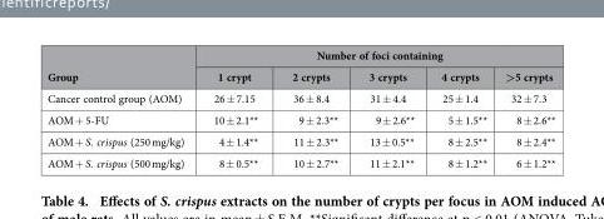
<table><thead><tr><td rowspan="2">Group</td><td colspan="5">Number of foci containing</td></tr><tr><td>1 crypt</td><td>2 crypts</td><td>3 crypts</td><td>4 crypts</td><td>&gt;5 crypts</td></tr></thead><tbody><tr><td>Cancer control group (AOM)</td><td>26 ± 7.15</td><td>36 ± 8.4</td><td>31 ± 4.4</td><td>25 ± 1.4</td><td>32 ± 7.3</td></tr><tr><td>AOM + 5-FU</td><td>10 ± 2.1**</td><td>9 ± 2.3**</td><td>9 ± 2.6**</td><td>5 ± 1.5**</td><td>8 ± 2.6**</td></tr><tr><td>AOM + S. crispus (250 mg/kg)</td><td>4 ± 1.4**</td><td>11 ± 2.3**</td><td>13 ± 0.5**</td><td>8 ± 2.5**</td><td>8 ± 2.4**</td></tr><tr><td>AOM + S. crispus (500 mg/kg)</td><td>8 ± 0.5**</td><td>10 ± 2.7**</td><td>11 ± 2.1**</td><td>8 ± 1.2**</td><td>6 ± 1.2**</td></tr></tbody></table>